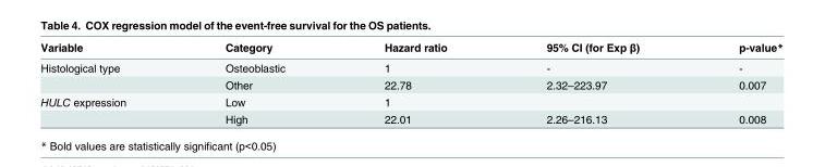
<table><thead><tr><td>Variable</td><td>Category</td><td>Hazard ratio</td><td>95% CI (for Exp β)</td><td>p-value*</td></tr></thead><tbody><tr><td rowspan="2">Histological type</td><td>Osteoblastic</td><td>1</td><td>-</td><td>-</td></tr><tr><td>Other</td><td>22.78</td><td>2.32–223.97</td><td>0.007</td></tr><tr><td rowspan="2">HULC expression</td><td>Low</td><td>1</td><td></td><td></td></tr><tr><td>High</td><td>22.01</td><td>2.26–216.13</td><td>0.008</td></tr></tbody></table>